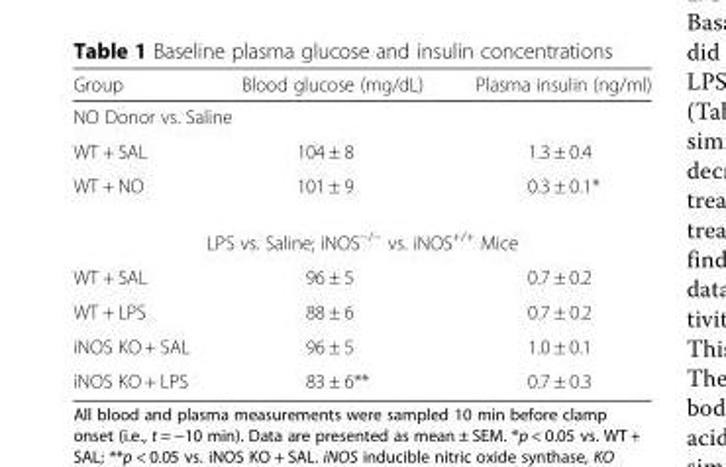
<table><thead><tr><td>Group</td><td>Blood glucose (mg/dL)</td><td>Plasma insulin (ng/ml)</td></tr></thead><tbody><tr><td colspan="3">NO Donor vs. Saline</td></tr><tr><td>WT + SAL</td><td>104 ± 8</td><td>1.3 ± 0.4</td></tr><tr><td>WT + NO</td><td>101 ± 9</td><td>0.3 ± 0.1*</td></tr><tr><td colspan="3">LPS vs. Saline; iNOS<sup>−/−</sup> vs. iNOS<sup>+/+</sup> Mice</td></tr><tr><td>WT + SAL</td><td>96 ± 5</td><td>0.7 ± 0.2</td></tr><tr><td>WT + LPS</td><td>88 ± 6</td><td>0.7 ± 0.2</td></tr><tr><td>iNOS KO + SAL</td><td>96 ± 5</td><td>1.0 ± 0.1</td></tr><tr><td>iNOS KO + LPS</td><td>83 ± 6**</td><td>0.7 ± 0.3</td></tr></tbody></table>